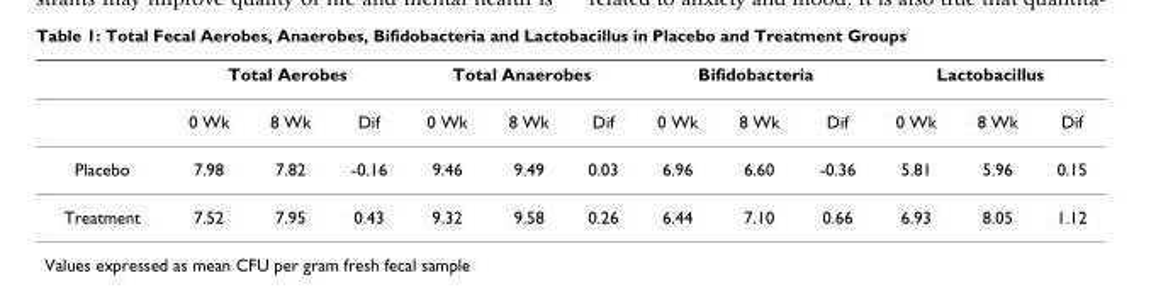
<table><thead><tr><td rowspan="2"></td><td colspan="3">Total Aerobes</td><td colspan="3">Total Anaerobes</td><td colspan="3">Bifidobacteria</td><td colspan="3">Lactobacillus</td></tr><tr><td>0 Wk</td><td>8 Wk</td><td>Dif</td><td>0 Wk</td><td>8 Wk</td><td>Dif</td><td>0 Wk</td><td>8 Wk</td><td>Dif</td><td>0 Wk</td><td>8 Wk</td><td>Dif</td></tr></thead><tbody><tr><td>Placebo</td><td>7.98</td><td>7.82</td><td>-0.16</td><td>9.46</td><td>9.49</td><td>0.03</td><td>6.96</td><td>6.60</td><td>-0.36</td><td>5.81</td><td>5.96</td><td>0.15</td></tr><tr><td>Treatment</td><td>7.52</td><td>7.95</td><td>0.43</td><td>9.32</td><td>9.58</td><td>0.26</td><td>6.44</td><td>7.10</td><td>0.66</td><td>6.93</td><td>8.05</td><td>1.12</td></tr></tbody></table>